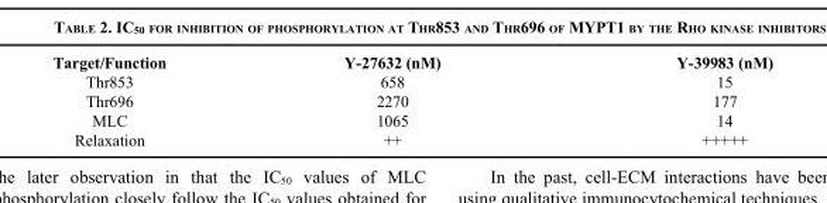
<table><thead><tr><td>Target/Function</td><td>Y-27632 (nM)</td><td>Y-39983 (nM)</td></tr></thead><tbody><tr><td>Thr853</td><td>658</td><td>15</td></tr><tr><td>Thr696</td><td>2270</td><td>177</td></tr><tr><td>MLC</td><td>1065</td><td>14</td></tr><tr><td>Relaxation</td><td>++</td><td>+++++</td></tr></tbody></table>